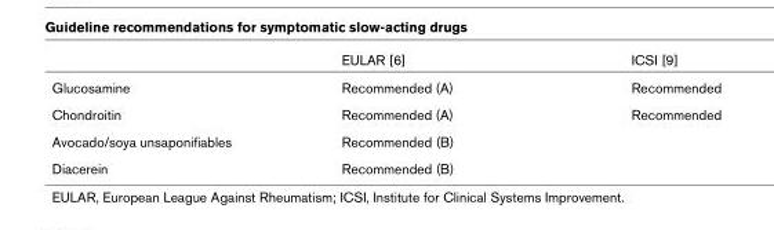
<table><thead><tr><td></td><td>EULAR [6]</td><td>ICSI [9]</td></tr></thead><tbody><tr><td>Glucosamine</td><td>Recommended (A)</td><td>Recommended</td></tr><tr><td>Chondroitin</td><td>Recommended (A)</td><td>Recommended</td></tr><tr><td>Avocado/soya unsaponifiables</td><td>Recommended (B)</td><td></td></tr><tr><td>Diacerein</td><td>Recommended (B)</td><td></td></tr></tbody></table>